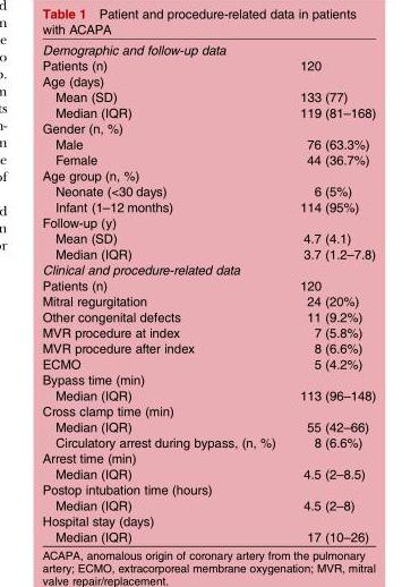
<table><tbody><tr><td colspan="2">Demographic and follow-up data</td></tr><tr><td>Patients (n)</td><td>120</td></tr><tr><td colspan="2">Age (days)</td></tr><tr><td>Mean (SD)</td><td>133 (77)</td></tr><tr><td>Median (IQR)</td><td>119 (81–168)</td></tr><tr><td colspan="2">Gender (n, %)</td></tr><tr><td>Male</td><td>76 (63.3%)</td></tr><tr><td>Female</td><td>44 (36.7%)</td></tr><tr><td colspan="2">Age group (n, %)</td></tr><tr><td>Neonate (&lt;30 days)</td><td>6 (5%)</td></tr><tr><td>Infant (1–12 months)</td><td>114 (95%)</td></tr><tr><td colspan="2">Follow-up (y)</td></tr><tr><td>Mean (SD)</td><td>4.7 (4.1)</td></tr><tr><td>Median (IQR)</td><td>3.7 (1.2–7.8)</td></tr><tr><td colspan="2">Clinical and procedure-related data</td></tr><tr><td>Patients (n)</td><td>120</td></tr><tr><td>Mitral regurgitation</td><td>24 (20%)</td></tr><tr><td>Other congenital defects</td><td>11 (9.2%)</td></tr><tr><td>MVR procedure at index</td><td>7 (5.8%)</td></tr><tr><td>MVR procedure after index</td><td>8 (6.6%)</td></tr><tr><td>ECMO</td><td>5 (4.2%)</td></tr><tr><td colspan="2">Bypass time (min)</td></tr><tr><td>Median (IQR)</td><td>113 (96–148)</td></tr><tr><td colspan="2">Cross clamp time (min)</td></tr><tr><td>Median (IQR)</td><td>55 (42–66)</td></tr><tr><td>Circulatory arrest during bypass, (n, %)</td><td>8 (6.6%)</td></tr><tr><td colspan="2">Arrest time (min)</td></tr><tr><td>Median (IQR)</td><td>4.5 (2–8.5)</td></tr><tr><td colspan="2">Postop intubation time (hours)</td></tr><tr><td>Median (IQR)</td><td>4.5 (2–8)</td></tr><tr><td colspan="2">Hospital stay (days)</td></tr><tr><td>Median (IQR)</td><td>17 (10–26)</td></tr></tbody></table>